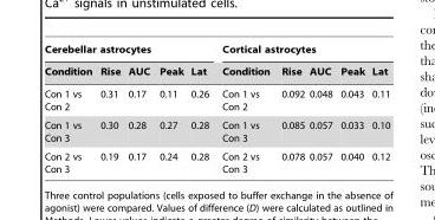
<table><thead><tr><td colspan="5">Cerebellar astrocytes</td><td colspan="5">Cortical astrocytes</td></tr><tr><td>Condition</td><td>Rise</td><td>AUC</td><td>Peak</td><td>Lat</td><td>Condition</td><td>Rise</td><td>AUC</td><td>Peak</td><td>Lat</td></tr></thead><tbody><tr><td>Con 1 vs Con 2</td><td>0.31</td><td>0.17</td><td>0.11</td><td>0.26</td><td>Con 1 vs Con 2</td><td>0.092</td><td>0.048</td><td>0.043</td><td>0.11</td></tr><tr><td>Con 1 vs Con 3</td><td>0.30</td><td>0.28</td><td>0.27</td><td>0.28</td><td>Con 1 vs Con 3</td><td>0.085</td><td>0.057</td><td>0.033</td><td>0.10</td></tr><tr><td>Con 2 vs Con 3</td><td>0.19</td><td>0.17</td><td>0.24</td><td>0.28</td><td>Con 2 vs Con 3</td><td>0.078</td><td>0.057</td><td>0.040</td><td>0.12</td></tr></tbody></table>